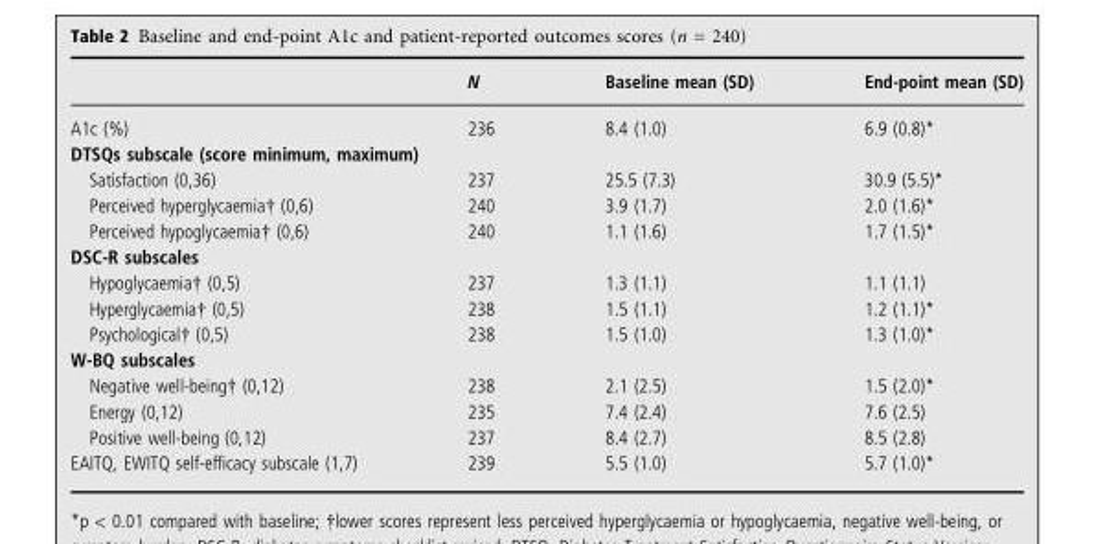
<table><thead><tr><td></td><td>N</td><td>Baseline mean (SD)</td><td>End-point mean (SD)</td></tr></thead><tbody><tr><td>A1c (%)</td><td>236</td><td>8.4 (1.0)</td><td>6.9 (0.8)*</td></tr><tr><td colspan="4">DTSQs subscale (score minimum, maximum)</td></tr><tr><td>Satisfaction (0,36)</td><td>237</td><td>25.5 (7.3)</td><td>30.9 (5.5)*</td></tr><tr><td>Perceived hyperglycaemia† (0,6)</td><td>240</td><td>3.9 (1.7)</td><td>2.0 (1.6)*</td></tr><tr><td>Perceived hypoglycaemia† (0,6)</td><td>240</td><td>1.1 (1.6)</td><td>1.7 (1.5)*</td></tr><tr><td colspan="4">DSC-R subscales</td></tr><tr><td>Hypoglycaemia† (0,5)</td><td>237</td><td>1.3 (1.1)</td><td>1.1 (1.1)</td></tr><tr><td>Hyperglycaemia† (0,5)</td><td>238</td><td>1.5 (1.1)</td><td>1.2 (1.1)*</td></tr><tr><td>Psychological† (0,5)</td><td>238</td><td>1.5 (1.0)</td><td>1.3 (1.0)*</td></tr><tr><td colspan="4">W-BQ subscales</td></tr><tr><td>Negative well-being† (0,12)</td><td>238</td><td>2.1 (2.5)</td><td>1.5 (2.0)*</td></tr><tr><td>Energy (0,12)</td><td>235</td><td>7.4 (2.4)</td><td>7.6 (2.5)</td></tr><tr><td>Positive well-being (0,12)</td><td>237</td><td>8.4 (2.7)</td><td>8.5 (2.8)</td></tr><tr><td>EAITQ, EWITQ self-efficacy subscale (1,7)</td><td>239</td><td>5.5 (1.0)</td><td>5.7 (1.0)*</td></tr></tbody></table>